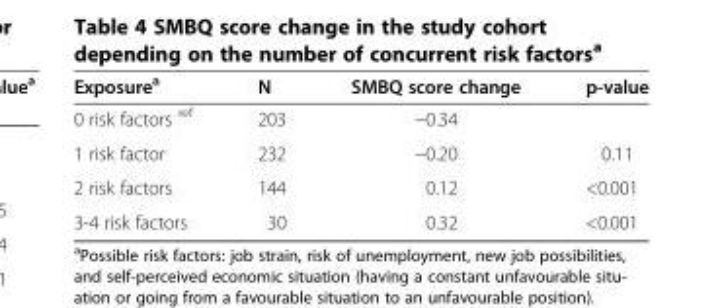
<table><thead><tr><td>Exposure<sup>a</sup></td><td>N</td><td>SMBQ score change</td><td>p-value</td></tr></thead><tbody><tr><td>0 risk factors <sup>ref</sup></td><td>203</td><td>−0.34</td><td></td></tr><tr><td>1 risk factor</td><td>232</td><td>−0.20</td><td>0.11</td></tr><tr><td>2 risk factors</td><td>144</td><td>0.12</td><td>&lt;0.001</td></tr><tr><td>3-4 risk factors</td><td>30</td><td>0.32</td><td>&lt;0.001</td></tr></tbody></table>